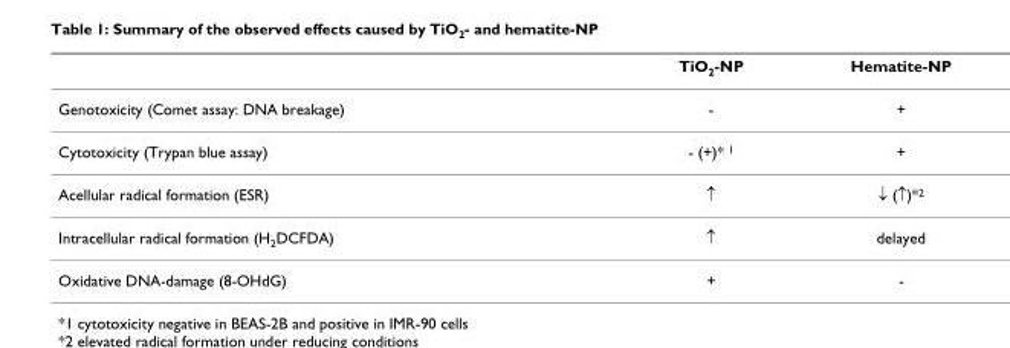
<table><thead><tr><td></td><td>TiO<sub>2</sub>-NP</td><td>Hematite-NP</td></tr></thead><tbody><tr><td>Genotoxicity (Comet assay: DNA breakage)</td><td>-</td><td>+</td></tr><tr><td>Cytotoxicity (Trypan blue assay)</td><td>- (+)* <sup>1</sup></td><td>+</td></tr><tr><td>Acellular radical formation (ESR)</td><td>↑</td><td>↓ (↑)*<sup>2</sup></td></tr><tr><td>Intracellular radical formation (H<sub>2</sub>DCFDA)</td><td>↑</td><td>delayed</td></tr><tr><td>Oxidative DNA-damage (8-OHdG)</td><td>+</td><td>-</td></tr></tbody></table>